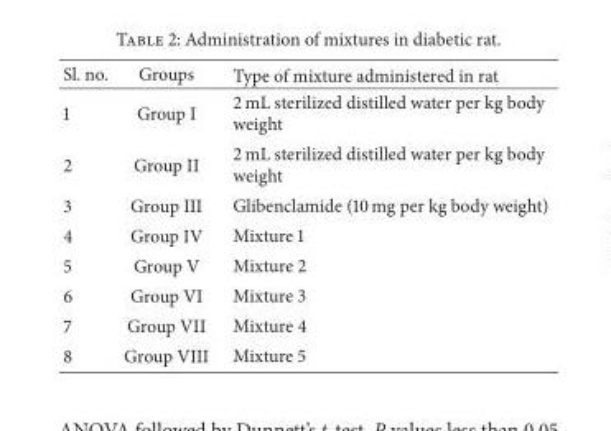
<table><thead><tr><td>Sl. no.</td><td>Groups</td><td>Type of mixture administered in rat</td></tr></thead><tbody><tr><td>1</td><td>Group I</td><td>2 mL sterilized distilled water per kg body weight</td></tr><tr><td>2</td><td>Group II</td><td>2 mL sterilized distilled water per kg body weight</td></tr><tr><td>3</td><td>Group III</td><td>Glibenclamide (10 mg per kg body weight)</td></tr><tr><td>4</td><td>Group IV</td><td>Mixture 1</td></tr><tr><td>5</td><td>Group V</td><td>Mixture 2</td></tr><tr><td>6</td><td>Group VI</td><td>Mixture 3</td></tr><tr><td>7</td><td>Group VII</td><td>Mixture 4</td></tr><tr><td>8</td><td>Group VIII</td><td>Mixture 5</td></tr></tbody></table>